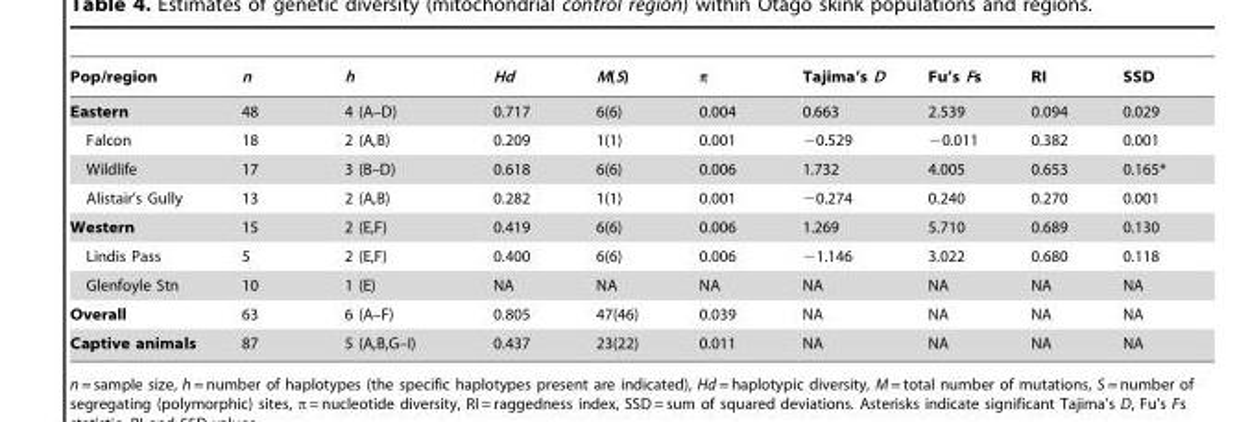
<table><thead><tr><td>Pop/region</td><td>n</td><td>h</td><td>Hd</td><td>M(S)</td><td>π</td><td>Tajima’s D</td><td>Fu’s Fs</td><td>RI</td><td>SSD</td></tr></thead><tbody><tr><td>Eastern</td><td>48</td><td>4 (A–D)</td><td>0.717</td><td>6(6)</td><td>0.004</td><td>0.663</td><td>2.539</td><td>0.094</td><td>0.029</td></tr><tr><td>Falcon</td><td>18</td><td>2 (A,B)</td><td>0.209</td><td>1(1)</td><td>0.001</td><td>−0.529</td><td>−0.011</td><td>0.382</td><td>0.001</td></tr><tr><td>Wildlife</td><td>17</td><td>3 (B–D)</td><td>0.618</td><td>6(6)</td><td>0.006</td><td>1.732</td><td>4.005</td><td>0.653</td><td>0.165*</td></tr><tr><td>Alistair’s Gully</td><td>13</td><td>2 (A,B)</td><td>0.282</td><td>1(1)</td><td>0.001</td><td>−0.274</td><td>0.240</td><td>0.270</td><td>0.001</td></tr><tr><td>Western</td><td>15</td><td>2 (E,F)</td><td>0.419</td><td>6(6)</td><td>0.006</td><td>1.269</td><td>5.710</td><td>0.689</td><td>0.130</td></tr><tr><td>Lindis Pass</td><td>5</td><td>2 (E,F)</td><td>0.400</td><td>6(6)</td><td>0.006</td><td>−1.146</td><td>3.022</td><td>0.680</td><td>0.118</td></tr><tr><td>Glenfoyle Stn</td><td>10</td><td>1 (E)</td><td>NA</td><td>NA</td><td>NA</td><td>NA</td><td>NA</td><td>NA</td><td>NA</td></tr><tr><td>Overall</td><td>63</td><td>6 (A–F)</td><td>0.805</td><td>47(46)</td><td>0.039</td><td>NA</td><td>NA</td><td>NA</td><td>NA</td></tr><tr><td>Captive animals</td><td>87</td><td>5 (A,B,G–I)</td><td>0.437</td><td>23(22)</td><td>0.011</td><td>NA</td><td>NA</td><td>NA</td><td>NA</td></tr></tbody></table>